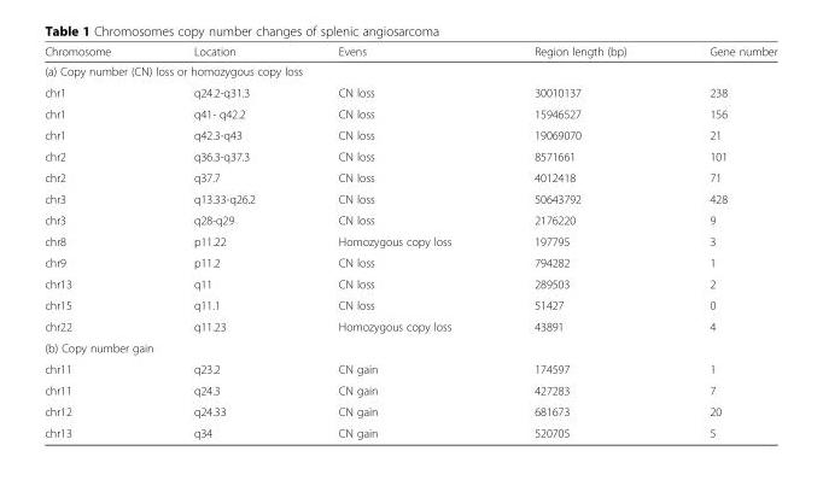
<table><thead><tr><td>Chromosome</td><td>Location</td><td>Evens</td><td>Region length (bp)</td><td>Gene number</td></tr></thead><tbody><tr><td colspan="5">(a) Copy number (CN) loss or homozygous copy loss</td></tr><tr><td>chr1</td><td>q24.2-q31.3</td><td>CN loss</td><td>30010137</td><td>238</td></tr><tr><td>chr1</td><td>q41- q42.2</td><td>CN loss</td><td>15946527</td><td>156</td></tr><tr><td>chr1</td><td>q42.3-q43</td><td>CN loss</td><td>19069070</td><td>21</td></tr><tr><td>chr2</td><td>q36.3-q37.3</td><td>CN loss</td><td>8571661</td><td>101</td></tr><tr><td>chr2</td><td>q37.7</td><td>CN loss</td><td>4012418</td><td>71</td></tr><tr><td>chr3</td><td>q13.33-q26.2</td><td>CN loss</td><td>50643792</td><td>428</td></tr><tr><td>chr3</td><td>q28-q29</td><td>CN loss</td><td>2176220</td><td>9</td></tr><tr><td>chr8</td><td>p11.22</td><td>Homozygous copy loss</td><td>197795</td><td>3</td></tr><tr><td>chr9</td><td>p11.2</td><td>CN loss</td><td>794282</td><td>1</td></tr><tr><td>chr13</td><td>q11</td><td>CN loss</td><td>289503</td><td>2</td></tr><tr><td>chr15</td><td>q11.1</td><td>CN loss</td><td>51427</td><td>0</td></tr><tr><td>chr22</td><td>q11.23</td><td>Homozygous copy loss</td><td>43891</td><td>4</td></tr><tr><td colspan="5">(b) Copy number gain</td></tr><tr><td>chr11</td><td>q23.2</td><td>CN gain</td><td>174597</td><td>1</td></tr><tr><td>chr11</td><td>q24.3</td><td>CN gain</td><td>427283</td><td>7</td></tr><tr><td>chr12</td><td>q24.33</td><td>CN gain</td><td>681673</td><td>20</td></tr><tr><td>chr13</td><td>q34</td><td>CN gain</td><td>520705</td><td>5</td></tr></tbody></table>